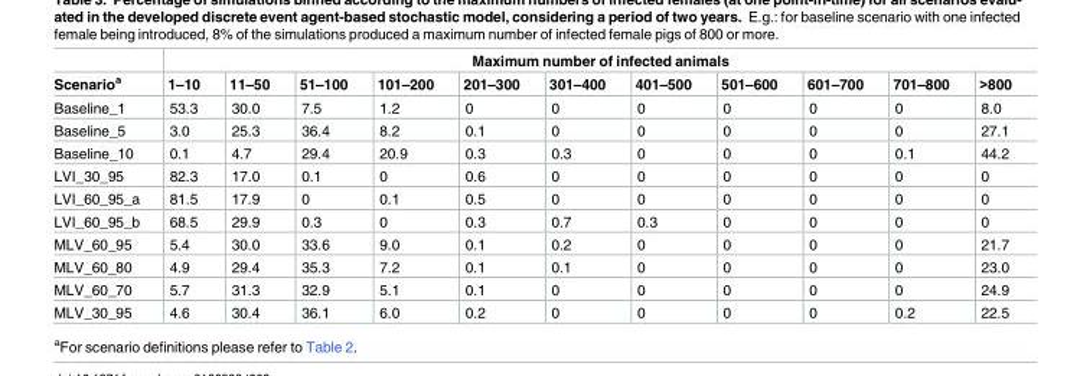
<table><thead><tr><td rowspan="2">Scenario<sup>a</sup></td><td colspan="11">Maximum number of infected animals</td></tr><tr><td>1–10</td><td>11–50</td><td>51–100</td><td>101–200</td><td>201–300</td><td>301–400</td><td>401–500</td><td>501–600</td><td>601–700</td><td>701–800</td><td>&gt;800</td></tr></thead><tbody><tr><td>Baseline_1</td><td>53.3</td><td>30.0</td><td>7.5</td><td>1.2</td><td>0</td><td>0</td><td>0</td><td>0</td><td>0</td><td>0</td><td>8.0</td></tr><tr><td>Baseline_5</td><td>3.0</td><td>25.3</td><td>36.4</td><td>8.2</td><td>0.1</td><td>0</td><td>0</td><td>0</td><td>0</td><td>0</td><td>27.1</td></tr><tr><td>Baseline_10</td><td>0.1</td><td>4.7</td><td>29.4</td><td>20.9</td><td>0.3</td><td>0.3</td><td>0</td><td>0</td><td>0</td><td>0.1</td><td>44.2</td></tr><tr><td>LVI_30_95</td><td>82.3</td><td>17.0</td><td>0.1</td><td>0</td><td>0.6</td><td>0</td><td>0</td><td>0</td><td>0</td><td>0</td><td>0</td></tr><tr><td>LVI_60_95_a</td><td>81.5</td><td>17.9</td><td>0</td><td>0.1</td><td>0.5</td><td>0</td><td>0</td><td>0</td><td>0</td><td>0</td><td>0</td></tr><tr><td>LVI_60_95_b</td><td>68.5</td><td>29.9</td><td>0.3</td><td>0</td><td>0.3</td><td>0.7</td><td>0.3</td><td>0</td><td>0</td><td>0</td><td>0</td></tr><tr><td>MLV_60_95</td><td>5.4</td><td>30.0</td><td>33.6</td><td>9.0</td><td>0.1</td><td>0.2</td><td>0</td><td>0</td><td>0</td><td>0</td><td>21.7</td></tr><tr><td>MLV_60_80</td><td>4.9</td><td>29.4</td><td>35.3</td><td>7.2</td><td>0.1</td><td>0.1</td><td>0</td><td>0</td><td>0</td><td>0</td><td>23.0</td></tr><tr><td>MLV_60_70</td><td>5.7</td><td>31.3</td><td>32.9</td><td>5.1</td><td>0.1</td><td>0</td><td>0</td><td>0</td><td>0</td><td>0</td><td>24.9</td></tr><tr><td>MLV_30_95</td><td>4.6</td><td>30.4</td><td>36.1</td><td>6.0</td><td>0.2</td><td>0</td><td>0</td><td>0</td><td>0</td><td>0.2</td><td>22.5</td></tr></tbody></table>